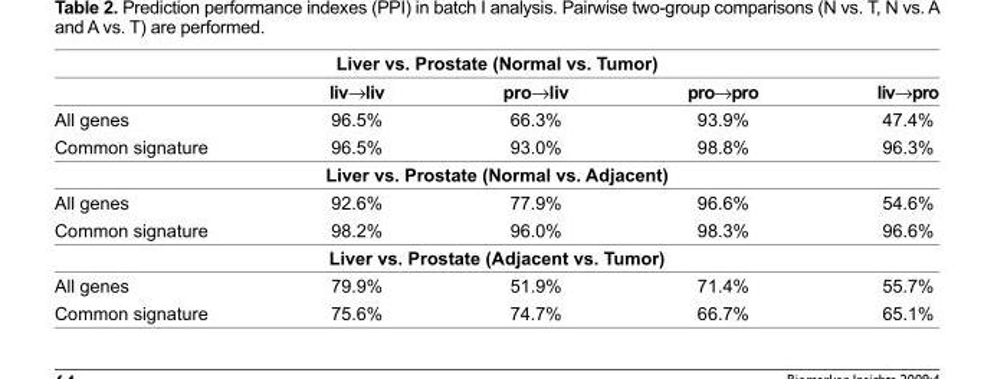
<table><tbody><tr><td colspan="5">Liver vs. Prostate (Normal vs. Tumor)</td></tr><tr><td></td><td>liv→liv</td><td>pro→liv</td><td>pro→pro</td><td>liv→pro</td></tr><tr><td>All genes</td><td>96.5%</td><td>66.3%</td><td>93.9%</td><td>47.4%</td></tr><tr><td>Common signature</td><td>96.5%</td><td>93.0%</td><td>98.8%</td><td>96.3%</td></tr><tr><td colspan="5">Liver vs. Prostate (Normal vs. Adjacent)</td></tr><tr><td>All genes</td><td>92.6%</td><td>77.9%</td><td>96.6%</td><td>54.6%</td></tr><tr><td>Common signature</td><td>98.2%</td><td>96.0%</td><td>98.3%</td><td>96.6%</td></tr><tr><td colspan="5">Liver vs. Prostate (Adjacent vs. Tumor)</td></tr><tr><td>All genes</td><td>79.9%</td><td>51.9%</td><td>71.4%</td><td>55.7%</td></tr><tr><td>Common signature</td><td>75.6%</td><td>74.7%</td><td>66.7%</td><td>65.1%</td></tr></tbody></table>